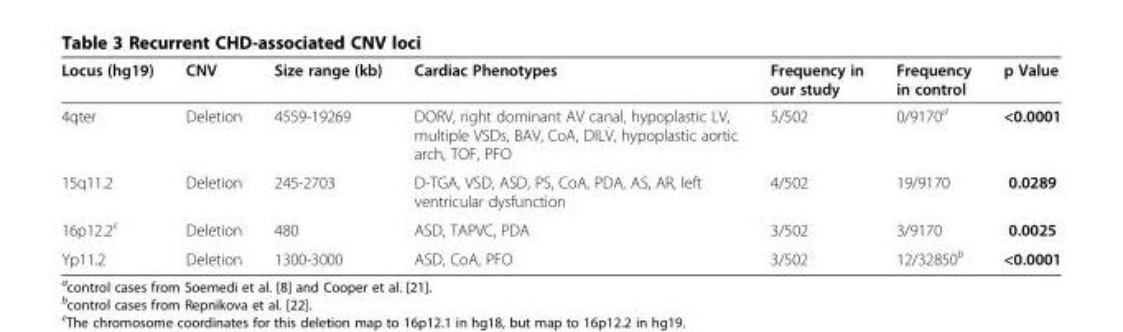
<table><thead><tr><td>Locus (hg19)</td><td>CNV</td><td>Size range (kb)</td><td>Cardiac Phenotypes</td><td>Frequency in our study</td><td>Frequency in control</td><td>p Value</td></tr></thead><tbody><tr><td>4qter</td><td>Deletion</td><td>4559-19269</td><td>DORV, right dominant AV canal, hypoplastic LV, multiple VSDs, BAV, CoA, DILV, hypoplastic aortic arch, TOF, PFO</td><td>5/502</td><td>0/9170<sup>a</sup></td><td>&lt;0.0001</td></tr><tr><td>15q11.2</td><td>Deletion</td><td>245-2703</td><td>D-TGA, VSD, ASD, PS, CoA, PDA, AS, AR, left ventricular dysfunction</td><td>4/502</td><td>19/9170</td><td>0.0289</td></tr><tr><td>16p12.2<sup>c</sup></td><td>Deletion</td><td>480</td><td>ASD, TAPVC, PDA</td><td>3/502</td><td>3/9170</td><td>0.0025</td></tr><tr><td>Yp11.2</td><td>Deletion</td><td>1300-3000</td><td>ASD, CoA, PFO</td><td>3/502</td><td>12/32850<sup>b</sup></td><td>&lt;0.0001</td></tr></tbody></table>